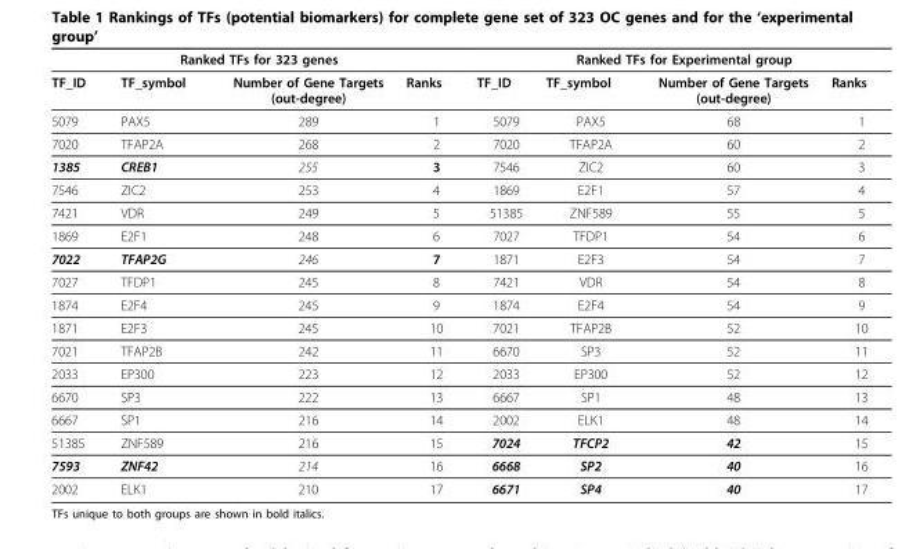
<table><thead><tr><td colspan="4">Ranked TFs for 323 genes</td><td colspan="4">Ranked TFs for Experimental group</td></tr><tr><td>TF_ID</td><td>TF_symbol</td><td>Number of Gene Targets (out-degree)</td><td>Ranks</td><td>TF_ID</td><td>TF_symbol</td><td>Number of Gene Targets (out-degree)</td><td>Ranks</td></tr></thead><tbody><tr><td>5079</td><td>PAX5</td><td>289</td><td>1</td><td>5079</td><td>PAX5</td><td>68</td><td>1</td></tr><tr><td>7020</td><td>TFAP2A</td><td>268</td><td>2</td><td>7020</td><td>TFAP2A</td><td>60</td><td>2</td></tr><tr><td>1385</td><td>CREB1</td><td>255</td><td>3</td><td>7546</td><td>ZIC2</td><td>60</td><td>3</td></tr><tr><td>7546</td><td>ZIC2</td><td>253</td><td>4</td><td>1869</td><td>E2F1</td><td>57</td><td>4</td></tr><tr><td>7421</td><td>VDR</td><td>249</td><td>5</td><td>51385</td><td>ZNF589</td><td>55</td><td>5</td></tr><tr><td>1869</td><td>E2F1</td><td>248</td><td>6</td><td>7027</td><td>TFDP1</td><td>54</td><td>6</td></tr><tr><td>7022</td><td>TFAP2G</td><td>246</td><td>7</td><td>1871</td><td>E2F3</td><td>54</td><td>7</td></tr><tr><td>7027</td><td>TFDP1</td><td>245</td><td>8</td><td>7421</td><td>VDR</td><td>54</td><td>8</td></tr><tr><td>1874</td><td>E2F4</td><td>245</td><td>9</td><td>1874</td><td>E2F4</td><td>54</td><td>9</td></tr><tr><td>1871</td><td>E2F3</td><td>245</td><td>10</td><td>7021</td><td>TFAP2B</td><td>52</td><td>10</td></tr><tr><td>7021</td><td>TFAP2B</td><td>242</td><td>11</td><td>6670</td><td>SP3</td><td>52</td><td>11</td></tr><tr><td>2033</td><td>EP300</td><td>223</td><td>12</td><td>2033</td><td>EP300</td><td>52</td><td>12</td></tr><tr><td>6670</td><td>SP3</td><td>222</td><td>13</td><td>6667</td><td>SP1</td><td>48</td><td>13</td></tr><tr><td>6667</td><td>SP1</td><td>216</td><td>14</td><td>2002</td><td>ELK1</td><td>48</td><td>14</td></tr><tr><td>51385</td><td>ZNF589</td><td>216</td><td>15</td><td>7024</td><td>TFCP2</td><td>42</td><td>15</td></tr><tr><td>7593</td><td>ZNF42</td><td>214</td><td>16</td><td>6668</td><td>SP2</td><td>40</td><td>16</td></tr><tr><td>2002</td><td>ELK1</td><td>210</td><td>17</td><td>6671</td><td>SP4</td><td>40</td><td>17</td></tr></tbody></table>